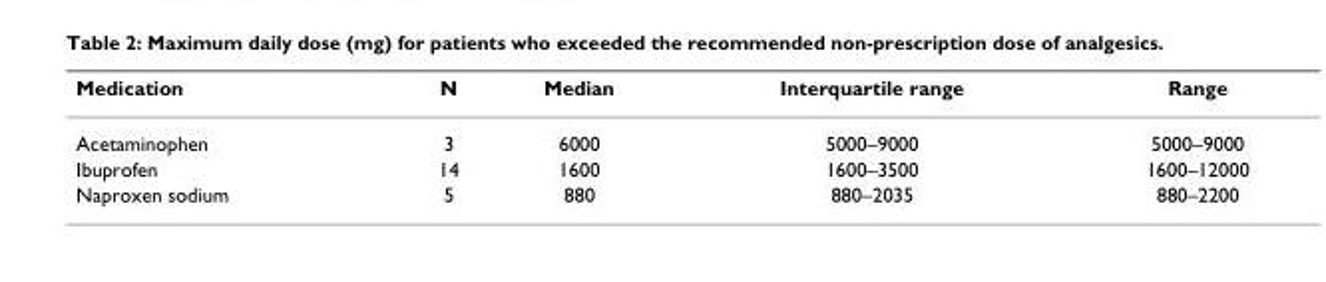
<table><thead><tr><td>Medication</td><td>N</td><td>Median</td><td>Interquartile range</td><td>Range</td></tr></thead><tbody><tr><td>Acetaminophen</td><td>3</td><td>6000</td><td>5000–9000</td><td>5000–9000</td></tr><tr><td>Ibuprofen</td><td>14</td><td>1600</td><td>1600–3500</td><td>1600–12000</td></tr><tr><td>Naproxen sodium</td><td>5</td><td>880</td><td>880–2035</td><td>880–2200</td></tr></tbody></table>